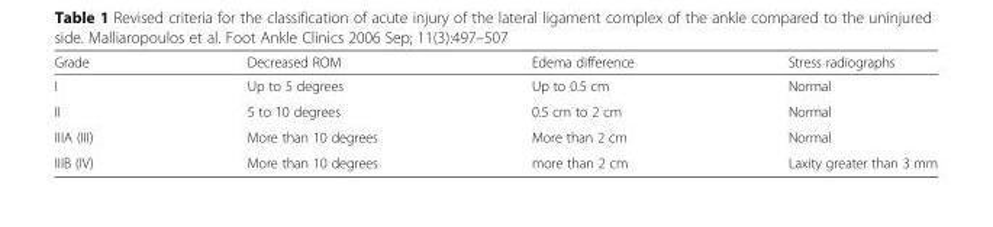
<table><thead><tr><td>Grade</td><td>Decreased ROM</td><td>Edema difference</td><td>Stress radiographs</td></tr></thead><tbody><tr><td>I</td><td>Up to 5 degrees</td><td>Up to 0.5 cm</td><td>Normal</td></tr><tr><td>II</td><td>5 to 10 degrees</td><td>0.5 cm to 2 cm</td><td>Normal</td></tr><tr><td>IIIA (III)</td><td>More than 10 degrees</td><td>More than 2 cm</td><td>Normal</td></tr><tr><td>IIIB (IV)</td><td>More than 10 degrees</td><td>more than 2 cm</td><td>Laxity greater than 3 mm</td></tr></tbody></table>